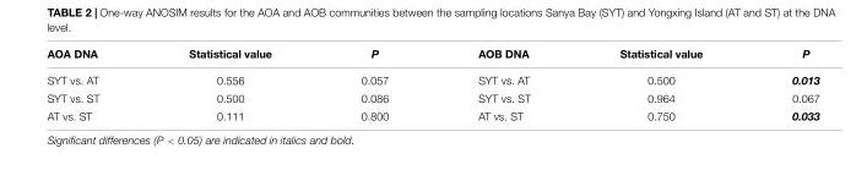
<table><thead><tr><td>AOA DNA</td><td>Statistical value</td><td>P</td><td>AOB DNA</td><td>Statistical value</td><td>P</td></tr></thead><tbody><tr><td>SYT vs. AT</td><td>0.556</td><td>0.057</td><td>SYT vs. AT</td><td>0.500</td><td>0.013</td></tr><tr><td>SYT vs. ST</td><td>0.500</td><td>0.086</td><td>SYT vs. ST</td><td>0.964</td><td>0.067</td></tr><tr><td>AT vs. ST</td><td>0.111</td><td>0.800</td><td>AT vs. ST</td><td>0.750</td><td>0.033</td></tr></tbody></table>